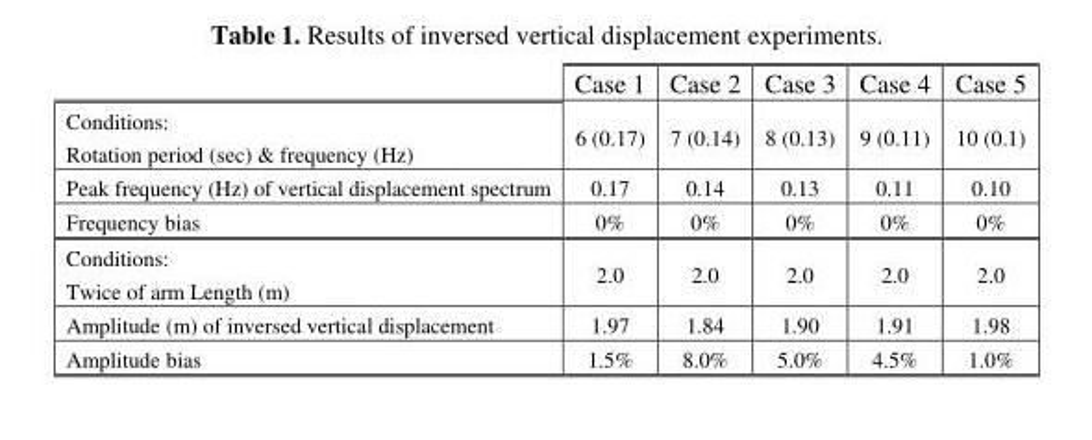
<table><thead><tr><td></td><td>Case 1</td><td>Case 2</td><td>Case 3</td><td>Case 4</td><td>Case 5</td></tr></thead><tbody><tr><td>Conditions: Rotation period (sec) &amp; frequency (Hz)</td><td>6 (0.17)</td><td>7 (0.14)</td><td>8 (0.13)</td><td>9 (0.11)</td><td>10 (0.1)</td></tr><tr><td>Peak frequency (Hz) of vertical displacement spectrum</td><td>0.17</td><td>0.14</td><td>0.13</td><td>0.11</td><td>0.10</td></tr><tr><td>Frequency bias</td><td>0%</td><td>0%</td><td>0%</td><td>0%</td><td>0%</td></tr><tr><td>Conditions: Twice of arm Length (m)</td><td>2.0</td><td>2.0</td><td>2.0</td><td>2.0</td><td>2.0</td></tr><tr><td>Amplitude (m) of inversed vertical displacement</td><td>1.97</td><td>1.84</td><td>1.90</td><td>1.91</td><td>1.98</td></tr><tr><td>Amplitude bias</td><td>1.5%</td><td>8.0%</td><td>5.0%</td><td>4.5%</td><td>1.0%</td></tr></tbody></table>